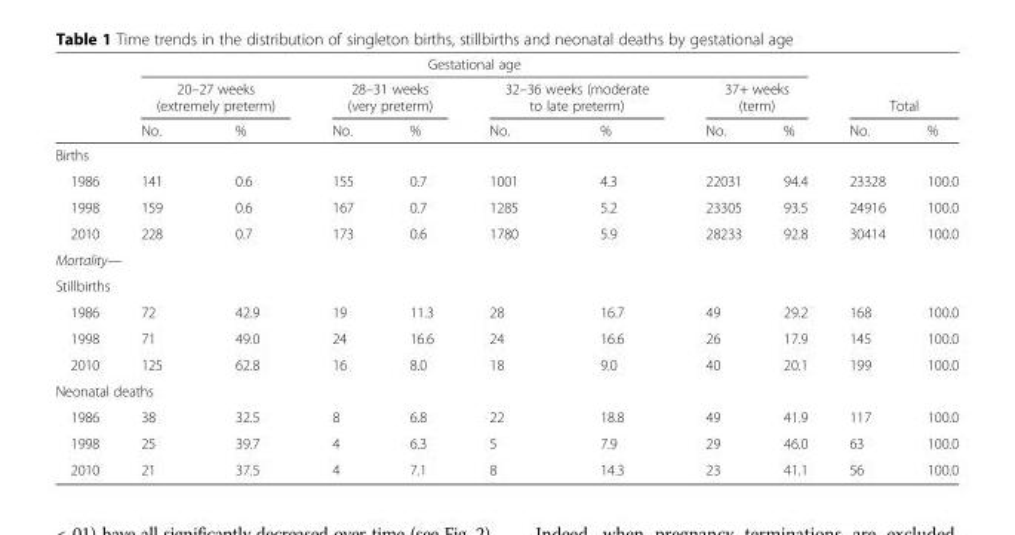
<table><thead><tr><td rowspan="3"></td><td colspan="8">Gestational age</td><td></td><td></td></tr><tr><td colspan="2">20–27 weeks (extremely preterm)</td><td colspan="2">28–31 weeks (very preterm)</td><td colspan="2">32–36 weeks (moderate to late preterm)</td><td colspan="2">37+ weeks (term)</td><td colspan="2">Total</td></tr><tr><td>No.</td><td>%</td><td>No.</td><td>%</td><td>No.</td><td>%</td><td>No.</td><td>%</td><td>No.</td><td>%</td></tr></thead><tbody><tr><td colspan="11">Births</td></tr><tr><td>1986</td><td>141</td><td>0.6</td><td>155</td><td>0.7</td><td>1001</td><td>4.3</td><td>22031</td><td>94.4</td><td>23328</td><td>100.0</td></tr><tr><td>1998</td><td>159</td><td>0.6</td><td>167</td><td>0.7</td><td>1285</td><td>5.2</td><td>23305</td><td>93.5</td><td>24916</td><td>100.0</td></tr><tr><td>2010</td><td>228</td><td>0.7</td><td>173</td><td>0.6</td><td>1780</td><td>5.9</td><td>28233</td><td>92.8</td><td>30414</td><td>100.0</td></tr><tr><td colspan="11">Mortality—</td></tr><tr><td colspan="11">Stillbirths</td></tr><tr><td>1986</td><td>72</td><td>42.9</td><td>19</td><td>11.3</td><td>28</td><td>16.7</td><td>49</td><td>29.2</td><td>168</td><td>100.0</td></tr><tr><td>1998</td><td>71</td><td>49.0</td><td>24</td><td>16.6</td><td>24</td><td>16.6</td><td>26</td><td>17.9</td><td>145</td><td>100.0</td></tr><tr><td>2010</td><td>125</td><td>62.8</td><td>16</td><td>8.0</td><td>18</td><td>9.0</td><td>40</td><td>20.1</td><td>199</td><td>100.0</td></tr><tr><td colspan="11">Neonatal deaths</td></tr><tr><td>1986</td><td>38</td><td>32.5</td><td>8</td><td>6.8</td><td>22</td><td>18.8</td><td>49</td><td>41.9</td><td>117</td><td>100.0</td></tr><tr><td>1998</td><td>25</td><td>39.7</td><td>4</td><td>6.3</td><td>5</td><td>7.9</td><td>29</td><td>46.0</td><td>63</td><td>100.0</td></tr><tr><td>2010</td><td>21</td><td>37.5</td><td>4</td><td>7.1</td><td>8</td><td>14.3</td><td>23</td><td>41.1</td><td>56</td><td>100.0</td></tr></tbody></table>